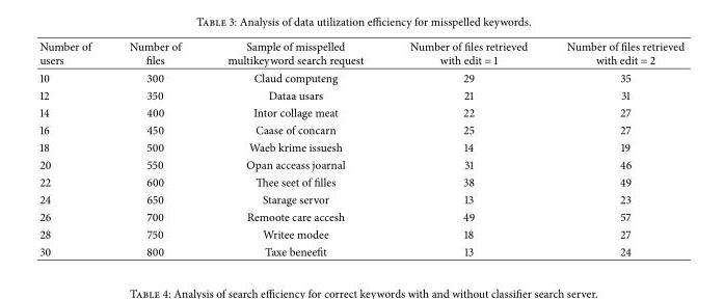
<table><thead><tr><td>Number of users</td><td>Number of files</td><td>Sample of misspelled multikeyword search request</td><td>Number of files retrieved with edit = 1</td><td>Number of files retrieved with edit = 2</td></tr></thead><tbody><tr><td>10</td><td>300</td><td>Claud computeng</td><td>29</td><td>35</td></tr><tr><td>12</td><td>350</td><td>Dataa usars</td><td>21</td><td>31</td></tr><tr><td>14</td><td>400</td><td>Intor collage meat</td><td>22</td><td>27</td></tr><tr><td>16</td><td>450</td><td>Caase of concarn</td><td>25</td><td>27</td></tr><tr><td>18</td><td>500</td><td>Waeb krime issuesh</td><td>14</td><td>19</td></tr><tr><td>20</td><td>550</td><td>Opan acceass joarnal</td><td>31</td><td>46</td></tr><tr><td>22</td><td>600</td><td>Thee seet of filles</td><td>38</td><td>49</td></tr><tr><td>24</td><td>650</td><td>Starage servor</td><td>13</td><td>23</td></tr><tr><td>26</td><td>700</td><td>Remoote care accesh</td><td>49</td><td>57</td></tr><tr><td>28</td><td>750</td><td>Writee modee</td><td>18</td><td>27</td></tr><tr><td>30</td><td>800</td><td>Taxe beneefit</td><td>13</td><td>24</td></tr></tbody></table>